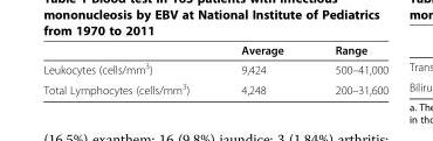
<table><thead><tr><td></td><td>Average</td><td>Range</td></tr></thead><tbody><tr><td>Leukocytes (cells/mm<sup>3</sup>)</td><td>9,424</td><td>500–41,000</td></tr><tr><td>Total Lymphocytes (cells/mm<sup>3</sup>)</td><td>4,248</td><td>200–31,600</td></tr></tbody></table>